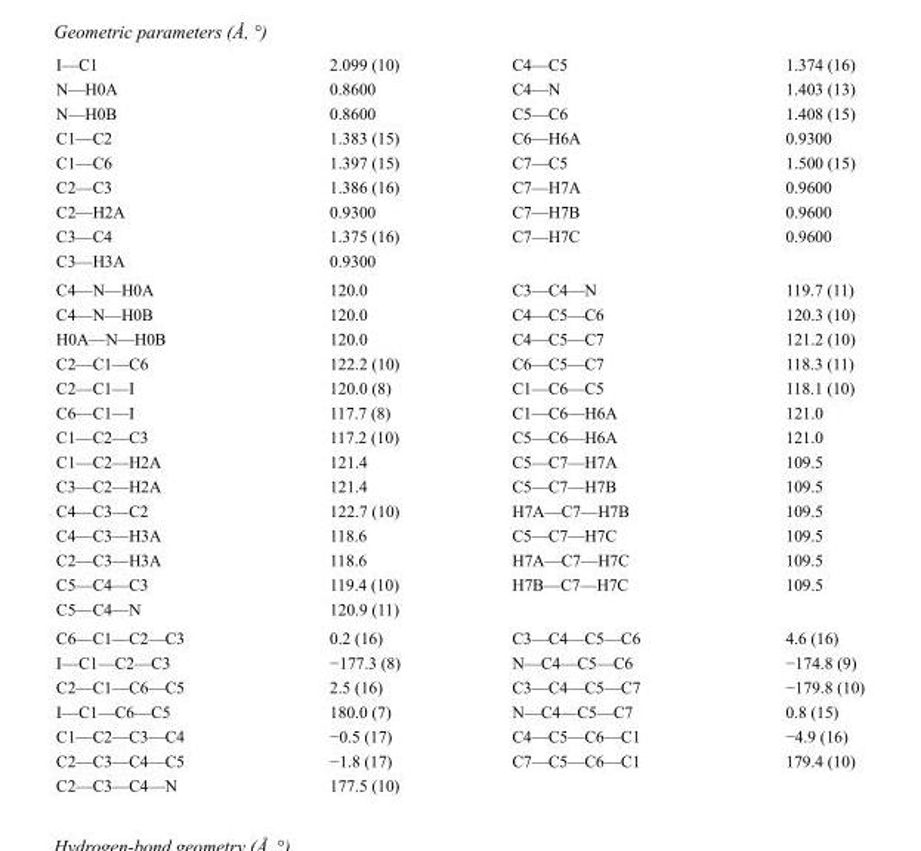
<table><tbody><tr><td>I—C1</td><td>2.099 (10)</td><td>C4—C5</td><td>1.374 (16)</td></tr><tr><td>N—H0A</td><td>0.8600</td><td>C4—N</td><td>1.403 (13)</td></tr><tr><td>N—H0B</td><td>0.8600</td><td>C5—C6</td><td>1.408 (15)</td></tr><tr><td>C1—C2</td><td>1.383 (15)</td><td>C6—H6A</td><td>0.9300</td></tr><tr><td>C1—C6</td><td>1.397 (15)</td><td>C7—C5</td><td>1.500 (15)</td></tr><tr><td>C2—C3</td><td>1.386 (16)</td><td>C7—H7A</td><td>0.9600</td></tr><tr><td>C2—H2A</td><td>0.9300</td><td>C7—H7B</td><td>0.9600</td></tr><tr><td>C3—C4</td><td>1.375 (16)</td><td>C7—H7C</td><td>0.9600</td></tr><tr><td>C3—H3A</td><td>0.9300</td><td></td><td></td></tr><tr><td>C4—N—H0A</td><td>120.0</td><td>C3—C4—N</td><td>119.7 (11)</td></tr><tr><td>C4—N—H0B</td><td>120.0</td><td>C4—C5—C6</td><td>120.3 (10)</td></tr><tr><td>H0A—N—H0B</td><td>120.0</td><td>C4—C5—C7</td><td>121.2 (10)</td></tr><tr><td>C2—C1—C6</td><td>122.2 (10)</td><td>C6—C5—C7</td><td>118.3 (11)</td></tr><tr><td>C2—C1—I</td><td>120.0 (8)</td><td>C1—C6—C5</td><td>118.1 (10)</td></tr><tr><td>C6—C1—I</td><td>117.7 (8)</td><td>C1—C6—H6A</td><td>121.0</td></tr><tr><td>C1—C2—C3</td><td>117.2 (10)</td><td>C5—C6—H6A</td><td>121.0</td></tr><tr><td>C1—C2—H2A</td><td>121.4</td><td>C5—C7—H7A</td><td>109.5</td></tr><tr><td>C3—C2—H2A</td><td>121.4</td><td>C5—C7—H7B</td><td>109.5</td></tr><tr><td>C4—C3—C2</td><td>122.7 (10)</td><td>H7A—C7—H7B</td><td>109.5</td></tr><tr><td>C4—C3—H3A</td><td>118.6</td><td>C5—C7—H7C</td><td>109.5</td></tr><tr><td>C2—C3—H3A</td><td>118.6</td><td>H7A—C7—H7C</td><td>109.5</td></tr><tr><td>C5—C4—C3</td><td>119.4 (10)</td><td>H7B—C7—H7C</td><td>109.5</td></tr><tr><td>C5—C4—N</td><td>120.9 (11)</td><td></td><td></td></tr><tr><td>C6—C1—C2—C3</td><td>0.2 (16)</td><td>C3—C4—C5—C6</td><td>4.6 (16)</td></tr><tr><td>I—C1—C2—C3</td><td>−177.3 (8)</td><td>N—C4—C5—C6</td><td>−174.8 (9)</td></tr><tr><td>C2—C1—C6—C5</td><td>2.5 (16)</td><td>C3—C4—C5—C7</td><td>−179.8 (10)</td></tr><tr><td>I—C1—C6—C5</td><td>180.0 (7)</td><td>N—C4—C5—C7</td><td>0.8 (15)</td></tr><tr><td>C1—C2—C3—C4</td><td>−0.5 (17)</td><td>C4—C5—C6—C1</td><td>−4.9 (16)</td></tr><tr><td>C2—C3—C4—C5</td><td>−1.8 (17)</td><td>C7—C5—C6—C1</td><td>179.4 (10)</td></tr><tr><td>C2—C3—C4—N</td><td>177.5 (10)</td><td></td><td></td></tr></tbody></table>